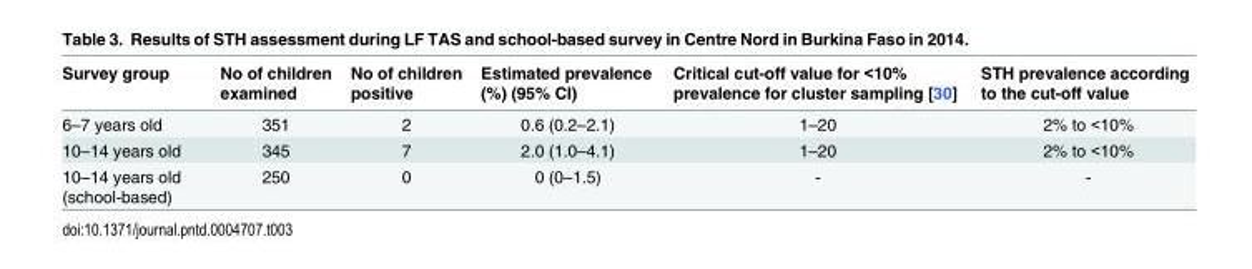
<table><thead><tr><td>Survey group</td><td>No of children examined</td><td>No of children positive</td><td>Estimated prevalence (%) (95% CI)</td><td>Critical cut-off value for &lt;10% prevalence for cluster sampling [30]</td><td>STH prevalence according to the cut-off value</td></tr></thead><tbody><tr><td>6–7 years old</td><td>351</td><td>2</td><td>0.6 (0.2–2.1)</td><td>1–20</td><td>2% to &lt;10%</td></tr><tr><td>10–14 years old</td><td>345</td><td>7</td><td>2.0 (1.0–4.1)</td><td>1–20</td><td>2% to &lt;10%</td></tr><tr><td>10–14 years old (school-based)</td><td>250</td><td>0</td><td>0 (0–1.5)</td><td>-</td><td>-</td></tr></tbody></table>